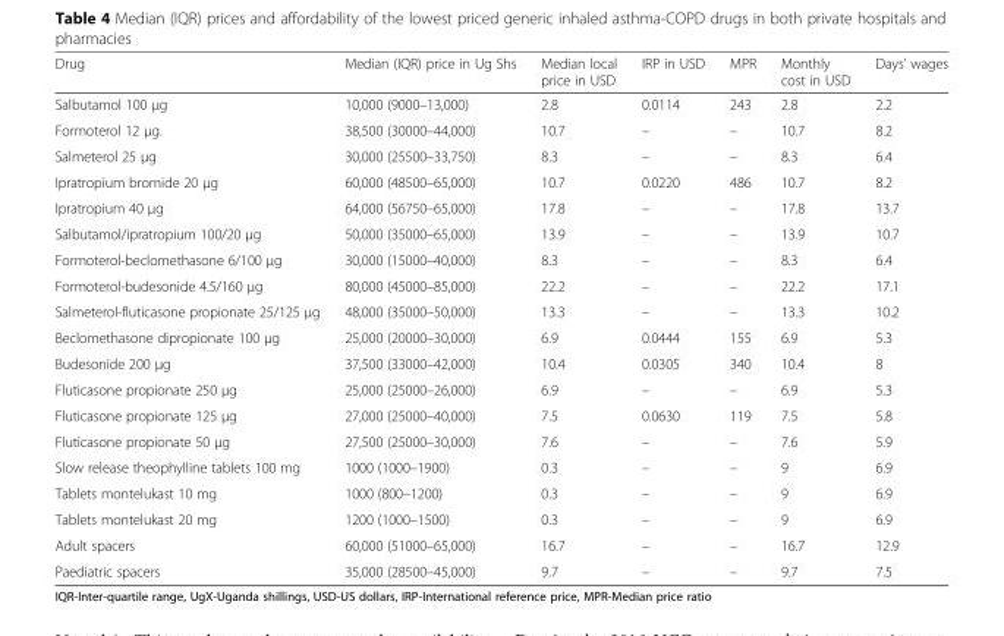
<table><thead><tr><td>Drug</td><td>Median (IQR) price in Ug Shs</td><td>Median local price in USD</td><td>IRP in USD</td><td>MPR</td><td>Monthly cost in USD</td><td>Days’ wages</td></tr></thead><tbody><tr><td>Salbutamol 100 μg</td><td>10,000 (9000–13,000)</td><td>2.8</td><td>0.0114</td><td>243</td><td>2.8</td><td>2.2</td></tr><tr><td>Formoterol 12 μg.</td><td>38,500 (30000–44,000)</td><td>10.7</td><td>–</td><td>–</td><td>10.7</td><td>8.2</td></tr><tr><td>Salmeterol 25 μg</td><td>30,000 (25500–33,750)</td><td>8.3</td><td>–</td><td>–</td><td>8.3</td><td>6.4</td></tr><tr><td>Ipratropium bromide 20 μg</td><td>60,000 (48500–65,000)</td><td>10.7</td><td>0.0220</td><td>486</td><td>10.7</td><td>8.2</td></tr><tr><td>Ipratropium 40 μg</td><td>64,000 (56750–65,000)</td><td>17.8</td><td>–</td><td>–</td><td>17.8</td><td>13.7</td></tr><tr><td>Salbutamol/ipratropium 100/20 μg</td><td>50,000 (35000–65,000)</td><td>13.9</td><td>–</td><td>–</td><td>13.9</td><td>10.7</td></tr><tr><td>Formoterol-beclomethasone 6/100 μg</td><td>30,000 (15000–40,000)</td><td>8.3</td><td>–</td><td>–</td><td>8.3</td><td>6.4</td></tr><tr><td>Formoterol-budesonide 4.5/160 μg</td><td>80,000 (45000–85,000)</td><td>22.2</td><td>–</td><td>–</td><td>22.2</td><td>17.1</td></tr><tr><td>Salmeterol-fluticasone propionate 25/125 μg</td><td>48,000 (35000–50,000)</td><td>13.3</td><td>–</td><td>–</td><td>13.3</td><td>10.2</td></tr><tr><td>Beclomethasone dipropionate 100 μg</td><td>25,000 (20000–30,000)</td><td>6.9</td><td>0.0444</td><td>155</td><td>6.9</td><td>5.3</td></tr><tr><td>Budesonide 200 μg</td><td>37,500 (33000–42,000)</td><td>10.4</td><td>0.0305</td><td>340</td><td>10.4</td><td>8</td></tr><tr><td>Fluticasone propionate 250 μg</td><td>25,000 (25000–26,000)</td><td>6.9</td><td>–</td><td>–</td><td>6.9</td><td>5.3</td></tr><tr><td>Fluticasone propionate 125 μg</td><td>27,000 (25000–40,000)</td><td>7.5</td><td>0.0630</td><td>119</td><td>7.5</td><td>5.8</td></tr><tr><td>Fluticasone propionate 50 μg</td><td>27,500 (25000–30,000)</td><td>7.6</td><td>–</td><td>–</td><td>7.6</td><td>5.9</td></tr><tr><td>Slow release theophylline tablets 100 mg</td><td>1000 (1000–1900)</td><td>0.3</td><td>–</td><td>–</td><td>9</td><td>6.9</td></tr><tr><td>Tablets montelukast 10 mg</td><td>1000 (800–1200)</td><td>0.3</td><td>–</td><td>–</td><td>9</td><td>6.9</td></tr><tr><td>Tablets montelukast 20 mg</td><td>1200 (1000–1500)</td><td>0.3</td><td>–</td><td>–</td><td>9</td><td>6.9</td></tr><tr><td>Adult spacers</td><td>60,000 (51000–65,000)</td><td>16.7</td><td>–</td><td>–</td><td>16.7</td><td>12.9</td></tr><tr><td>Paediatric spacers</td><td>35,000 (28500–45,000)</td><td>9.7</td><td>–</td><td>–</td><td>9.7</td><td>7.5</td></tr></tbody></table>